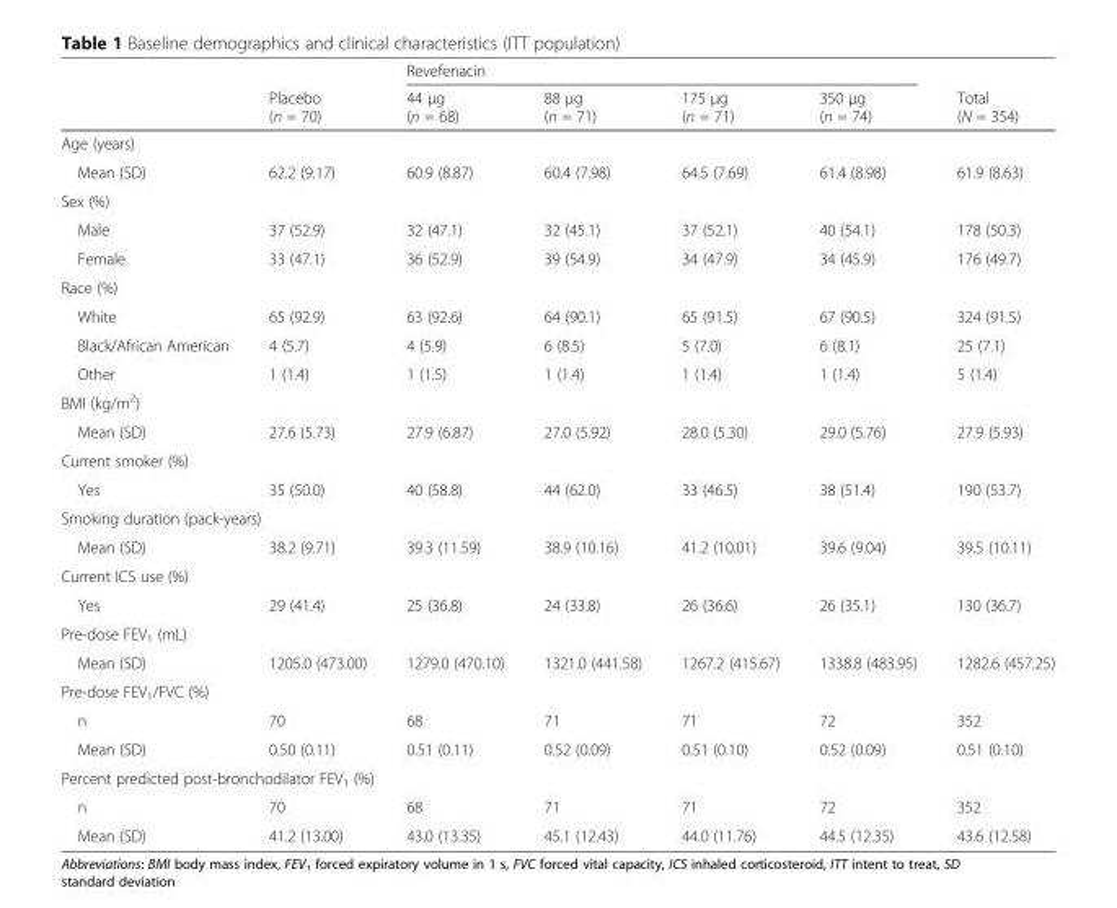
<table><thead><tr><td rowspan="2"></td><td rowspan="2">Placebo (n = 70)</td><td colspan="4">Revefenacin</td><td rowspan="2">Total (N = 354)</td></tr><tr><td>44 μg (n = 68)</td><td>88 μg (n = 71)</td><td>175 μg (n = 71)</td><td>350 μg (n = 74)</td></tr></thead><tbody><tr><td colspan="7">Age (years)</td></tr><tr><td>Mean (SD)</td><td>62.2 (9.17)</td><td>60.9 (8.87)</td><td>60.4 (7.98)</td><td>64.5 (7.69)</td><td>61.4 (8.98)</td><td>61.9 (8.63)</td></tr><tr><td colspan="7">Sex (%)</td></tr><tr><td>Male</td><td>37 (52.9)</td><td>32 (47.1)</td><td>32 (45.1)</td><td>37 (52.1)</td><td>40 (54.1)</td><td>178 (50.3)</td></tr><tr><td>Female</td><td>33 (47.1)</td><td>36 (52.9)</td><td>39 (54.9)</td><td>34 (47.9)</td><td>34 (45.9)</td><td>176 (49.7)</td></tr><tr><td colspan="7">Race (%)</td></tr><tr><td>White</td><td>65 (92.9)</td><td>63 (92.6)</td><td>64 (90.1)</td><td>65 (91.5)</td><td>67 (90.5)</td><td>324 (91.5)</td></tr><tr><td>Black/African American</td><td>4 (5.7)</td><td>4 (5.9)</td><td>6 (8.5)</td><td>5 (7.0)</td><td>6 (8.1)</td><td>25 (7.1)</td></tr><tr><td>Other</td><td>1 (1.4)</td><td>1 (1.5)</td><td>1 (1.4)</td><td>1 (1.4)</td><td>1 (1.4)</td><td>5 (1.4)</td></tr><tr><td colspan="7">BMI (kg/m<sup>2</sup>)</td></tr><tr><td>Mean (SD)</td><td>27.6 (5.73)</td><td>27.9 (6.87)</td><td>27.0 (5.92)</td><td>28.0 (5.30)</td><td>29.0 (5.76)</td><td>27.9 (5.93)</td></tr><tr><td colspan="7">Current smoker (%)</td></tr><tr><td>Yes</td><td>35 (50.0)</td><td>40 (58.8)</td><td>44 (62.0)</td><td>33 (46.5)</td><td>38 (51.4)</td><td>190 (53.7)</td></tr><tr><td colspan="7">Smoking duration (pack-years)</td></tr><tr><td>Mean (SD)</td><td>38.2 (9.71)</td><td>39.3 (11.59)</td><td>38.9 (10.16)</td><td>41.2 (10.01)</td><td>39.6 (9.04)</td><td>39.5 (10.11)</td></tr><tr><td colspan="7">Current ICS use (%)</td></tr><tr><td>Yes</td><td>29 (41.4)</td><td>25 (36.8)</td><td>24 (33.8)</td><td>26 (36.6)</td><td>26 (35.1)</td><td>130 (36.7)</td></tr><tr><td colspan="7">Pre-dose FEV<sub>1</sub> (mL)</td></tr><tr><td>Mean (SD)</td><td>1205.0 (473.00)</td><td>1279.0 (470.10)</td><td>1321.0 (441.58)</td><td>1267.2 (415.67)</td><td>1338.8 (483.95)</td><td>1282.6 (457.25)</td></tr><tr><td colspan="7">Pre-dose FEV<sub>1</sub>/FVC (%)</td></tr><tr><td>n</td><td>70</td><td>68</td><td>71</td><td>71</td><td>72</td><td>352</td></tr><tr><td>Mean (SD)</td><td>0.50 (0.11)</td><td>0.51 (0.11)</td><td>0.52 (0.09)</td><td>0.51 (0.10)</td><td>0.52 (0.09)</td><td>0.51 (0.10)</td></tr><tr><td colspan="7">Percent predicted post-bronchodilator FEV<sub>1</sub> (%)</td></tr><tr><td>n</td><td>70</td><td>68</td><td>71</td><td>71</td><td>72</td><td>352</td></tr><tr><td>Mean (SD)</td><td>41.2 (13.00)</td><td>43.0 (13.35)</td><td>45.1 (12.43)</td><td>44.0 (11.76)</td><td>44.5 (12.35)</td><td>43.6 (12.58)</td></tr></tbody></table>